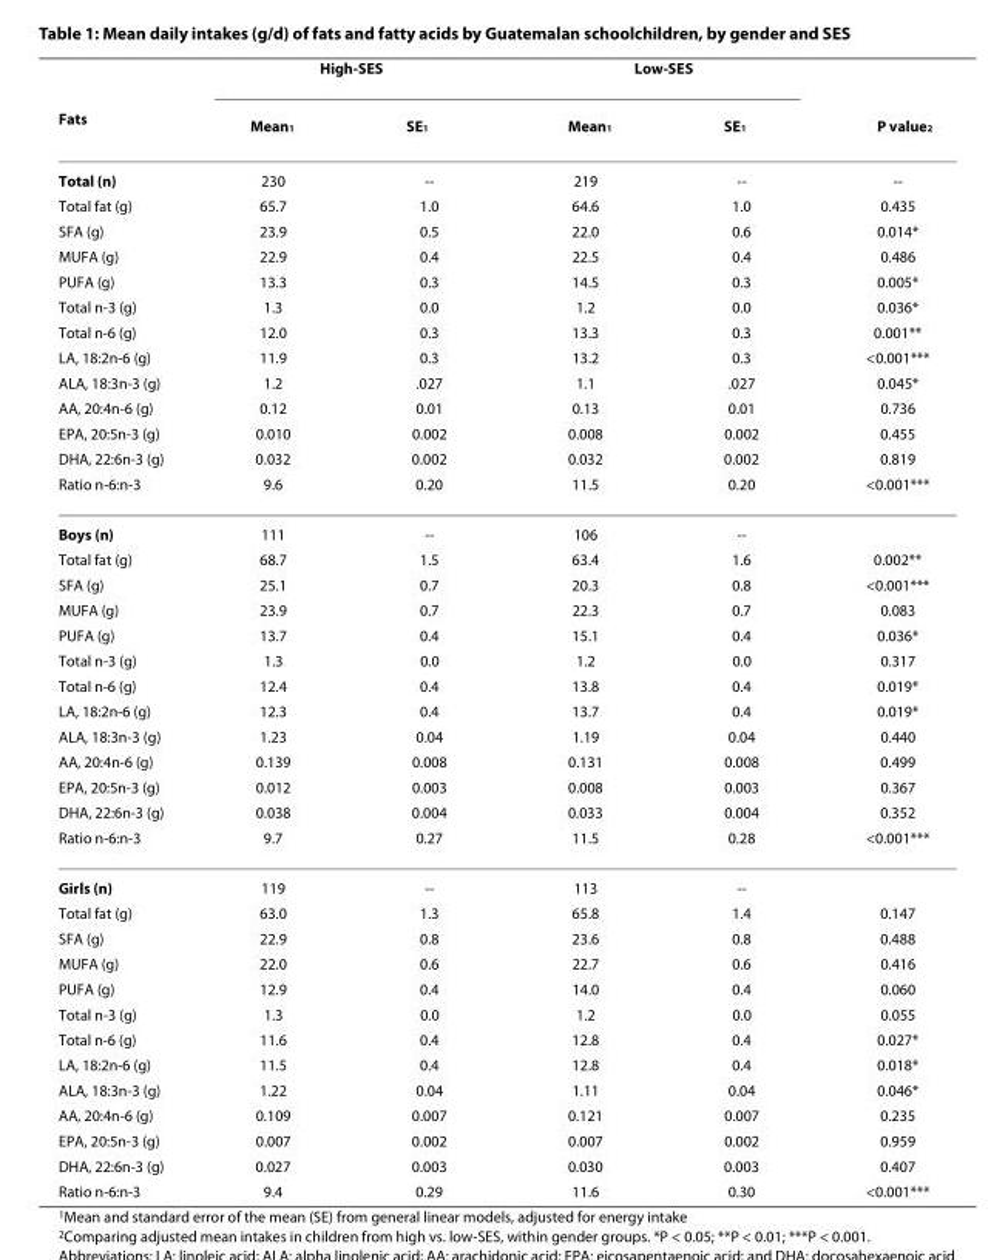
<table><thead><tr><td rowspan="2">Fats</td><td colspan="2">High-SES</td><td colspan="2">Low-SES</td><td rowspan="2">P value<sup>2</sup></td></tr><tr><td>Mean<sup>1</sup></td><td>SE<sup>1</sup></td><td>Mean<sup>1</sup></td><td>SE<sup>1</sup></td></tr></thead><tbody><tr><td>Total (n)</td><td>230</td><td>--</td><td>219</td><td>--</td><td>--</td></tr><tr><td>Total fat (g)</td><td>65.7</td><td>1.0</td><td>64.6</td><td>1.0</td><td>0.435</td></tr><tr><td>SFA (g)</td><td>23.9</td><td>0.5</td><td>22.0</td><td>0.6</td><td>0.014*</td></tr><tr><td>MUFA (g)</td><td>22.9</td><td>0.4</td><td>22.5</td><td>0.4</td><td>0.486</td></tr><tr><td>PUFA (g)</td><td>13.3</td><td>0.3</td><td>14.5</td><td>0.3</td><td>0.005*</td></tr><tr><td>Total n-3 (g)</td><td>1.3</td><td>0.0</td><td>1.2</td><td>0.0</td><td>0.036*</td></tr><tr><td>Total n-6 (g)</td><td>12.0</td><td>0.3</td><td>13.3</td><td>0.3</td><td>0.001**</td></tr><tr><td>LA, 18:2n-6 (g)</td><td>11.9</td><td>0.3</td><td>13.2</td><td>0.3</td><td>&lt;0.001***</td></tr><tr><td>ALA, 18:3n-3 (g)</td><td>1.2</td><td>.027</td><td>1.1</td><td>.027</td><td>0.045*</td></tr><tr><td>AA, 20:4n-6 (g)</td><td>0.12</td><td>0.01</td><td>0.13</td><td>0.01</td><td>0.736</td></tr><tr><td>EPA, 20:5n-3 (g)</td><td>0.010</td><td>0.002</td><td>0.008</td><td>0.002</td><td>0.455</td></tr><tr><td>DHA, 22:6n-3 (g)</td><td>0.032</td><td>0.002</td><td>0.032</td><td>0.002</td><td>0.819</td></tr><tr><td>Ratio n-6:n-3</td><td>9.6</td><td>0.20</td><td>11.5</td><td>0.20</td><td>&lt;0.001***</td></tr><tr><td>Boys (n)</td><td>111</td><td>--</td><td>106</td><td>--</td><td></td></tr><tr><td>Total fat (g)</td><td>68.7</td><td>1.5</td><td>63.4</td><td>1.6</td><td>0.002**</td></tr><tr><td>SFA (g)</td><td>25.1</td><td>0.7</td><td>20.3</td><td>0.8</td><td>&lt;0.001***</td></tr><tr><td>MUFA (g)</td><td>23.9</td><td>0.7</td><td>22.3</td><td>0.7</td><td>0.083</td></tr><tr><td>PUFA (g)</td><td>13.7</td><td>0.4</td><td>15.1</td><td>0.4</td><td>0.036*</td></tr><tr><td>Total n-3 (g)</td><td>1.3</td><td>0.0</td><td>1.2</td><td>0.0</td><td>0.317</td></tr><tr><td>Total n-6 (g)</td><td>12.4</td><td>0.4</td><td>13.8</td><td>0.4</td><td>0.019*</td></tr><tr><td>LA, 18:2n-6 (g)</td><td>12.3</td><td>0.4</td><td>13.7</td><td>0.4</td><td>0.019*</td></tr><tr><td>ALA, 18:3n-3 (g)</td><td>1.23</td><td>0.04</td><td>1.19</td><td>0.04</td><td>0.440</td></tr><tr><td>AA, 20:4n-6 (g)</td><td>0.139</td><td>0.008</td><td>0.131</td><td>0.008</td><td>0.499</td></tr><tr><td>EPA, 20:5n-3 (g)</td><td>0.012</td><td>0.003</td><td>0.008</td><td>0.003</td><td>0.367</td></tr><tr><td>DHA, 22:6n-3 (g)</td><td>0.038</td><td>0.004</td><td>0.033</td><td>0.004</td><td>0.352</td></tr><tr><td>Ratio n-6:n-3</td><td>9.7</td><td>0.27</td><td>11.5</td><td>0.28</td><td>&lt;0.001***</td></tr><tr><td>Girls (n)</td><td>119</td><td>--</td><td>113</td><td>--</td><td></td></tr><tr><td>Total fat (g)</td><td>63.0</td><td>1.3</td><td>65.8</td><td>1.4</td><td>0.147</td></tr><tr><td>SFA (g)</td><td>22.9</td><td>0.8</td><td>23.6</td><td>0.8</td><td>0.488</td></tr><tr><td>MUFA (g)</td><td>22.0</td><td>0.6</td><td>22.7</td><td>0.6</td><td>0.416</td></tr><tr><td>PUFA (g)</td><td>12.9</td><td>0.4</td><td>14.0</td><td>0.4</td><td>0.060</td></tr><tr><td>Total n-3 (g)</td><td>1.3</td><td>0.0</td><td>1.2</td><td>0.0</td><td>0.055</td></tr><tr><td>Total n-6 (g)</td><td>11.6</td><td>0.4</td><td>12.8</td><td>0.4</td><td>0.027*</td></tr><tr><td>LA, 18:2n-6 (g)</td><td>11.5</td><td>0.4</td><td>12.8</td><td>0.4</td><td>0.018*</td></tr><tr><td>ALA, 18:3n-3 (g)</td><td>1.22</td><td>0.04</td><td>1.11</td><td>0.04</td><td>0.046*</td></tr><tr><td>AA, 20:4n-6 (g)</td><td>0.109</td><td>0.007</td><td>0.121</td><td>0.007</td><td>0.235</td></tr><tr><td>EPA, 20:5n-3 (g)</td><td>0.007</td><td>0.002</td><td>0.007</td><td>0.002</td><td>0.959</td></tr><tr><td>DHA, 22:6n-3 (g)</td><td>0.027</td><td>0.003</td><td>0.030</td><td>0.003</td><td>0.407</td></tr><tr><td>Ratio n-6:n-3</td><td>9.4</td><td>0.29</td><td>11.6</td><td>0.30</td><td>&lt;0.001***</td></tr></tbody></table>